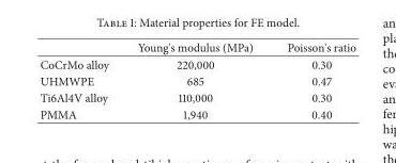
<table><thead><tr><td></td><td>Young&#x27;s modulus (MPa)</td><td>Poisson&#x27;s ratio</td></tr></thead><tbody><tr><td>CoCrMo alloy</td><td>220,000</td><td>0.30</td></tr><tr><td>UHMWPE</td><td>685</td><td>0.47</td></tr><tr><td>Ti6Al4V alloy</td><td>110,000</td><td>0.30</td></tr><tr><td>PMMA</td><td>1,940</td><td>0.40</td></tr></tbody></table>